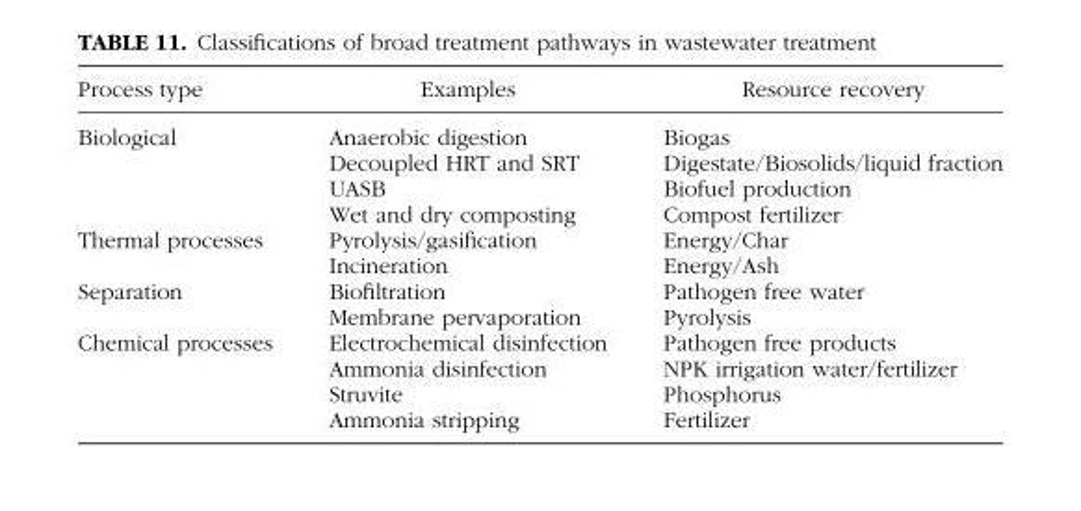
<table><thead><tr><td>Process type</td><td>Examples</td><td>Resource recovery</td></tr></thead><tbody><tr><td rowspan="4">Biological</td><td>Anaerobic digestion</td><td>Biogas</td></tr><tr><td>Decoupled HRT and SRT</td><td>Digestate/Biosolids/liquid fraction</td></tr><tr><td>UASB</td><td>Biofuel production</td></tr><tr><td>Wet and dry composting</td><td>Compost fertilizer</td></tr><tr><td rowspan="2">Thermal processes</td><td>Pyrolysis/gasification</td><td>Energy/Char</td></tr><tr><td>Incineration</td><td>Energy/Ash</td></tr><tr><td rowspan="2">Separation</td><td>Biofiltration</td><td>Pathogen free water</td></tr><tr><td>Membrane pervaporation</td><td>Pyrolysis</td></tr><tr><td rowspan="4">Chemical processes</td><td>Electrochemical disinfection</td><td>Pathogen free products</td></tr><tr><td>Ammonia disinfection</td><td>NPK irrigation water/fertilizer</td></tr><tr><td>Struvite</td><td>Phosphorus</td></tr><tr><td>Ammonia stripping</td><td>Fertilizer</td></tr></tbody></table>